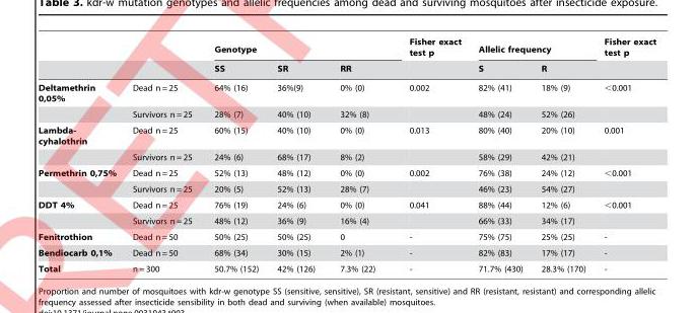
<table><thead><tr><td rowspan="2"></td><td rowspan="2"></td><td colspan="3">Genotype</td><td rowspan="2">Fisher exact test p</td><td colspan="2">Allelic frequency</td><td rowspan="2">Fisher exact test p</td></tr><tr><td>SS</td><td>SR</td><td>RR</td><td>S</td><td>R</td></tr></thead><tbody><tr><td rowspan="2">Deltamethrin 0,05%</td><td>Dead n = 25</td><td>64% (16)</td><td>36%(9)</td><td>0% (0)</td><td>0.002</td><td>82% (41)</td><td>18% (9)</td><td>&lt;0.001</td></tr><tr><td>Survivors n = 25</td><td>28% (7)</td><td>40% (10)</td><td>32% (8)</td><td></td><td>48% (24)</td><td>52% (26)</td><td></td></tr><tr><td rowspan="2">Lambda- cyhalothrin</td><td>Dead n = 25</td><td>60% (15)</td><td>40% (10)</td><td>0% (0)</td><td>0.013</td><td>80% (40)</td><td>20% (10)</td><td>0.001</td></tr><tr><td>Survivors n = 25</td><td>24% (6)</td><td>68% (17)</td><td>8% (2)</td><td></td><td>58% (29)</td><td>42% (21)</td><td></td></tr><tr><td rowspan="2">Permethrin 0,75%</td><td>Dead n = 25</td><td>52% (13)</td><td>48% (12)</td><td>0% (0)</td><td>0.002</td><td>76% (38)</td><td>24% (12)</td><td>&lt;0.001</td></tr><tr><td>Survivors n = 25</td><td>20% (5)</td><td>52% (13)</td><td>28% (7)</td><td></td><td>46% (23)</td><td>54% (27)</td><td></td></tr><tr><td rowspan="2">DDT 4%</td><td>Dead n = 25</td><td>76% (19)</td><td>24% (6)</td><td>0% (0)</td><td>0.041</td><td>88% (44)</td><td>12% (6)</td><td>&lt;0.001</td></tr><tr><td>Survivors n = 25</td><td>48% (12)</td><td>36% (9)</td><td>16% (4)</td><td></td><td>66% (33)</td><td>34% (17)</td><td></td></tr><tr><td>Fenitrothion</td><td>Dead n = 50</td><td>50% (25)</td><td>50% (25)</td><td>0</td><td>-</td><td>75% (75)</td><td>25% (25)</td><td>-</td></tr><tr><td>Bendiocarb 0,1%</td><td>Dead n = 50</td><td>68% (34)</td><td>30% (15)</td><td>2% (1)</td><td>-</td><td>82% (83)</td><td>17% (17)</td><td>-</td></tr><tr><td>Total</td><td>n = 300</td><td>50.7% (152)</td><td>42% (126)</td><td>7.3% (22)</td><td>-</td><td>71.7% (430)</td><td>28.3% (170)</td><td>-</td></tr></tbody></table>